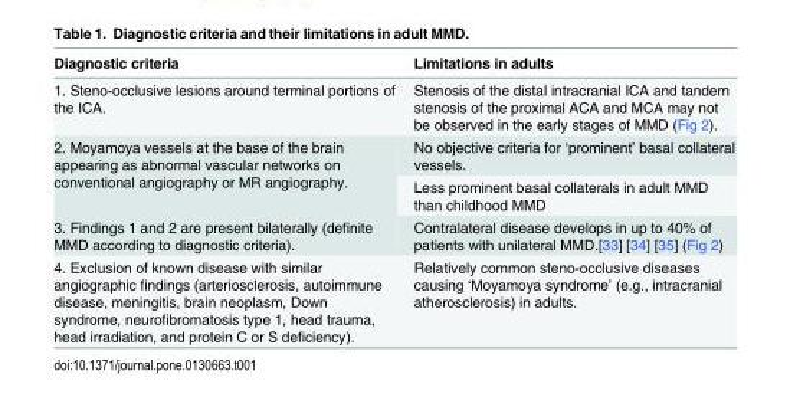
<table><thead><tr><td>Diagnostic criteria</td><td>Limitations in adults</td></tr></thead><tbody><tr><td>1. Steno-occlusive lesions around terminal portions of the ICA.</td><td>Stenosis of the distal intracranial ICA and tandem stenosis of the proximal ACA and MCA may not be observed in the early stages of MMD (Fig 2).</td></tr><tr><td rowspan="2">2. Moyamoya vessels at the base of the brain appearing as abnormal vascular networks on conventional angiography or MR angiography.</td><td>No objective criteria for ‘prominent’ basal collateral vessels.</td></tr><tr><td>Less prominent basal collaterals in adult MMD than childhood MMD</td></tr><tr><td>3. Findings 1 and 2 are present bilaterally (definite MMD according to diagnostic criteria).</td><td>Contralateral disease develops in up to 40% of patients with unilateral MMD.[33] [34] [35] (Fig 2)</td></tr><tr><td>4. Exclusion of known disease with similar angiographic findings (arteriosclerosis, autoimmune disease, meningitis, brain neoplasm, Down syndrome, neurofibromatosis type 1, head trauma, head irradiation, and protein C or S deficiency).</td><td>Relatively common steno-occlusive diseases causing ‘Moyamoya syndrome’ (e.g., intracranial atherosclerosis) in adults.</td></tr></tbody></table>